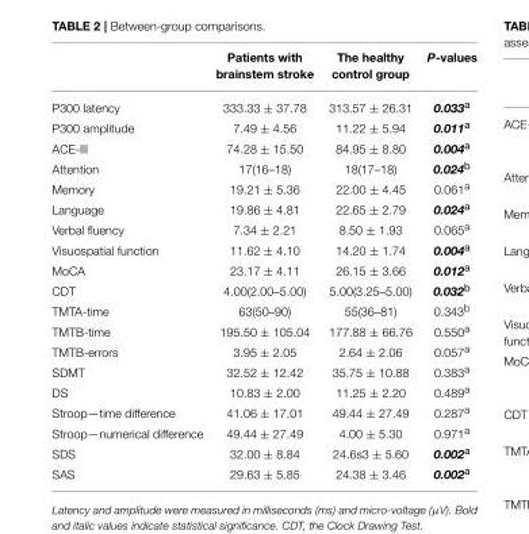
<table><thead><tr><td></td><td>Patients with brainstem stroke</td><td>The healthy control group</td><td>P-values</td></tr></thead><tbody><tr><td>P300 latency</td><td>333.33 ± 37.78</td><td>313.57 ± 26.31</td><td>0.033<sup>a</sup></td></tr><tr><td>P300 amplitude</td><td>7.49 ± 4.56</td><td>11.22 ± 5.94</td><td>0.011<sup>a</sup></td></tr><tr><td>ACE-III</td><td>74.28 ± 15.50</td><td>84.95 ± 8.80</td><td>0.004<sup>a</sup></td></tr><tr><td>Attention</td><td>17(16–18)</td><td>18(17–18)</td><td>0.024<sup>b</sup></td></tr><tr><td>Memory</td><td>19.21 ± 5.36</td><td>22.00 ± 4.45</td><td>0.061<sup>a</sup></td></tr><tr><td>Language</td><td>19.86 ± 4.81</td><td>22.65 ± 2.79</td><td>0.024<sup>a</sup></td></tr><tr><td>Verbal fluency</td><td>7.34 ± 2.21</td><td>8.50 ± 1.93</td><td>0.065<sup>a</sup></td></tr><tr><td>Visuospatial function</td><td>11.62 ± 4.10</td><td>14.20 ± 1.74</td><td>0.004<sup>a</sup></td></tr><tr><td>MoCA</td><td>23.17 ± 4.11</td><td>26.15 ± 3.66</td><td>0.012<sup>a</sup></td></tr><tr><td>CDT</td><td>4.00(2.00–5.00)</td><td>5.00(3.25–5.00)</td><td>0.032<sup>b</sup></td></tr><tr><td>TMTA-time</td><td>63(50–90)</td><td>55(36–81)</td><td>0.343<sup>b</sup></td></tr><tr><td>TMTB-time</td><td>195.50 ± 105.04</td><td>177.88 ± 66.76</td><td>0.550<sup>a</sup></td></tr><tr><td>TMTB-errors</td><td>3.95 ± 2.05</td><td>2.64 ± 2.06</td><td>0.057<sup>a</sup></td></tr><tr><td>SDMT</td><td>32.52 ± 12.42</td><td>35.75 ± 10.88</td><td>0.383<sup>a</sup></td></tr><tr><td>DS</td><td>10.83 ± 2.00</td><td>11.25 ± 2.20</td><td>0.489<sup>a</sup></td></tr><tr><td>Stroop—time difference</td><td>41.06 ± 17.01</td><td>49.44 ± 27.49</td><td>0.287<sup>a</sup></td></tr><tr><td>Stroop—numerical difference</td><td>49.44 ± 27.49</td><td>4.00 ± 5.30</td><td>0.971<sup>a</sup></td></tr><tr><td>SDS</td><td>32.00 ± 8.84</td><td>24.6s3 ± 5.60</td><td>0.002<sup>a</sup></td></tr><tr><td>SAS</td><td>29.63 ± 5.85</td><td>24.38 ± 3.46</td><td>0.002<sup>a</sup></td></tr></tbody></table>